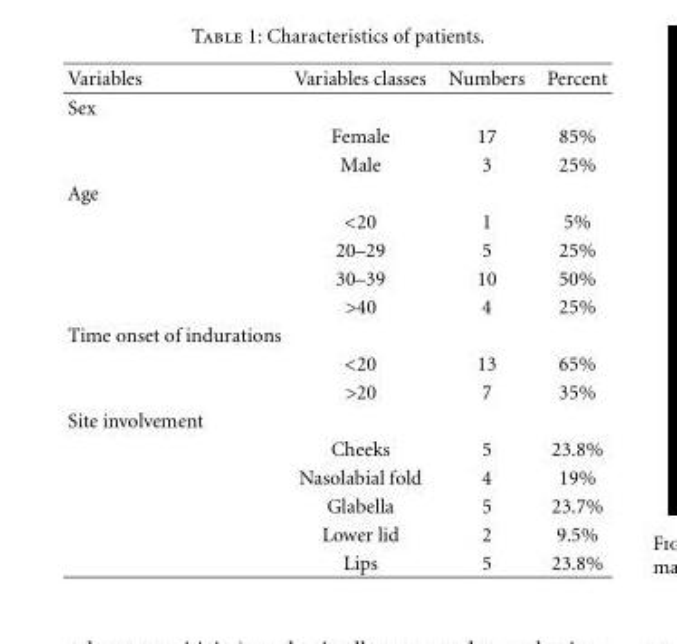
<table><thead><tr><td>Variables</td><td>Variables classes</td><td>Numbers</td><td>Percent</td></tr></thead><tbody><tr><td colspan="4">Sex</td></tr><tr><td></td><td>Female</td><td>17</td><td>85%</td></tr><tr><td></td><td>Male</td><td>3</td><td>25%</td></tr><tr><td colspan="4">Age</td></tr><tr><td></td><td>&lt;20</td><td>1</td><td>5%</td></tr><tr><td></td><td>20–29</td><td>5</td><td>25%</td></tr><tr><td></td><td>30–39</td><td>10</td><td>50%</td></tr><tr><td></td><td>&gt;40</td><td>4</td><td>25%</td></tr><tr><td colspan="4">Time onset of indurations</td></tr><tr><td></td><td>&lt;20</td><td>13</td><td>65%</td></tr><tr><td></td><td>&gt;20</td><td>7</td><td>35%</td></tr><tr><td colspan="4">Site involvement</td></tr><tr><td></td><td>Cheeks</td><td>5</td><td>23.8%</td></tr><tr><td></td><td>Nasolabial fold</td><td>4</td><td>19%</td></tr><tr><td></td><td>Glabella</td><td>5</td><td>23.7%</td></tr><tr><td></td><td>Lower lid</td><td>2</td><td>9.5%</td></tr><tr><td></td><td>Lips</td><td>5</td><td>23.8%</td></tr></tbody></table>